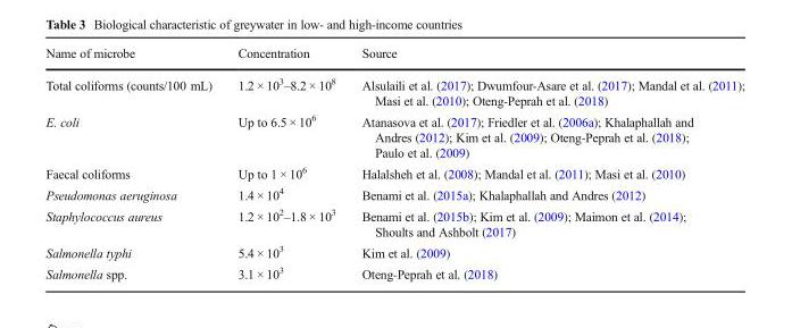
<table><thead><tr><td>Name of microbe</td><td>Concentration</td><td>Source</td></tr></thead><tbody><tr><td>Total coliforms (counts/100 mL)</td><td>1.2 × 10<sup>3</sup>–8.2 × 10<sup>8</sup></td><td>Alsulaili et al. (2017); Dwumfour-Asare et al. (2017); Mandal et al. (2011); Masi et al. (2010); Oteng-Peprah et al. (2018)</td></tr><tr><td>E. coli</td><td>Up to 6.5 × 10<sup>6</sup></td><td>Atanasova et al. (2017); Friedler et al. (2006a); Khalaphallah and Andres (2012); Kim et al. (2009); Oteng-Peprah et al. (2018); Paulo et al. (2009)</td></tr><tr><td>Faecal coliforms</td><td>Up to 1 × 10<sup>6</sup></td><td>Halalsheh et al. (2008); Mandal et al. (2011); Masi et al. (2010)</td></tr><tr><td>Pseudomonas aeruginosa</td><td>1.4 × 10<sup>4</sup></td><td>Benami et al. (2015a); Khalaphallah and Andres (2012)</td></tr><tr><td>Staphylococcus aureus</td><td>1.2 × 10<sup>2</sup>–1.8 × 10<sup>3</sup></td><td>Benami et al. (2015b); Kim et al. (2009); Maimon et al. (2014); Shoults and Ashbolt (2017)</td></tr><tr><td>Salmonella typhi</td><td>5.4 × 10<sup>3</sup></td><td>Kim et al. (2009)</td></tr><tr><td>Salmonella spp.</td><td>3.1 × 10<sup>3</sup></td><td>Oteng-Peprah et al. (2018)</td></tr></tbody></table>